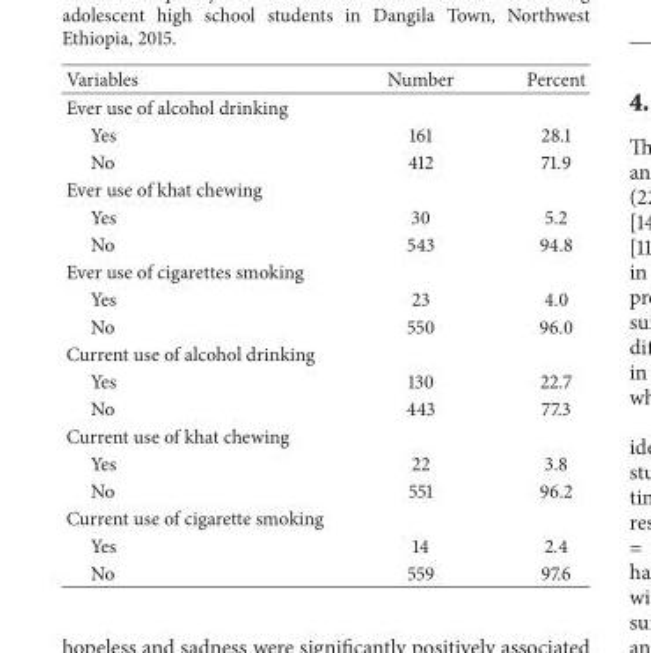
<table><thead><tr><td>Variables</td><td>Number</td><td>Percent</td></tr></thead><tbody><tr><td colspan="3">Ever use of alcohol drinking</td></tr><tr><td>Yes</td><td>161</td><td>28.1</td></tr><tr><td>No</td><td>412</td><td>71.9</td></tr><tr><td colspan="3">Ever use of khat chewing</td></tr><tr><td>Yes</td><td>30</td><td>5.2</td></tr><tr><td>No</td><td>543</td><td>94.8</td></tr><tr><td colspan="3">Ever use of cigarettes smoking</td></tr><tr><td>Yes</td><td>23</td><td>4.0</td></tr><tr><td>No</td><td>550</td><td>96.0</td></tr><tr><td colspan="3">Current use of alcohol drinking</td></tr><tr><td>Yes</td><td>130</td><td>22.7</td></tr><tr><td>No</td><td>443</td><td>77.3</td></tr><tr><td colspan="3">Current use of khat chewing</td></tr><tr><td>Yes</td><td>22</td><td>3.8</td></tr><tr><td>No</td><td>551</td><td>96.2</td></tr><tr><td colspan="3">Current use of cigarette smoking</td></tr><tr><td>Yes</td><td>14</td><td>2.4</td></tr><tr><td>No</td><td>559</td><td>97.6</td></tr></tbody></table>